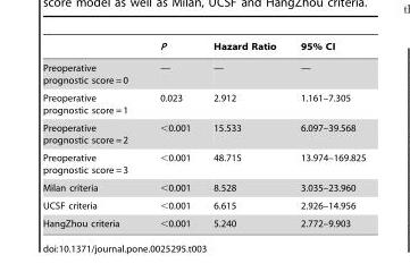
<table><thead><tr><td></td><td>P</td><td>Hazard Ratio</td><td>95% CI</td></tr></thead><tbody><tr><td>Preoperative prognostic score = 0</td><td>—</td><td>—</td><td>—</td></tr><tr><td>Preoperative prognostic score = 1</td><td>0.023</td><td>2.912</td><td>1.161–7.305</td></tr><tr><td>Preoperative prognostic score = 2</td><td>&lt;0.001</td><td>15.533</td><td>6.097–39.568</td></tr><tr><td>Preoperative prognostic score = 3</td><td>&lt;0.001</td><td>48.715</td><td>13.974–169.825</td></tr><tr><td>Milan criteria</td><td>&lt;0.001</td><td>8.528</td><td>3.035–23.960</td></tr><tr><td>UCSF criteria</td><td>&lt;0.001</td><td>6.615</td><td>2.926–14.956</td></tr><tr><td>HangZhou criteria</td><td>&lt;0.001</td><td>5.240</td><td>2.772–9.903</td></tr></tbody></table>